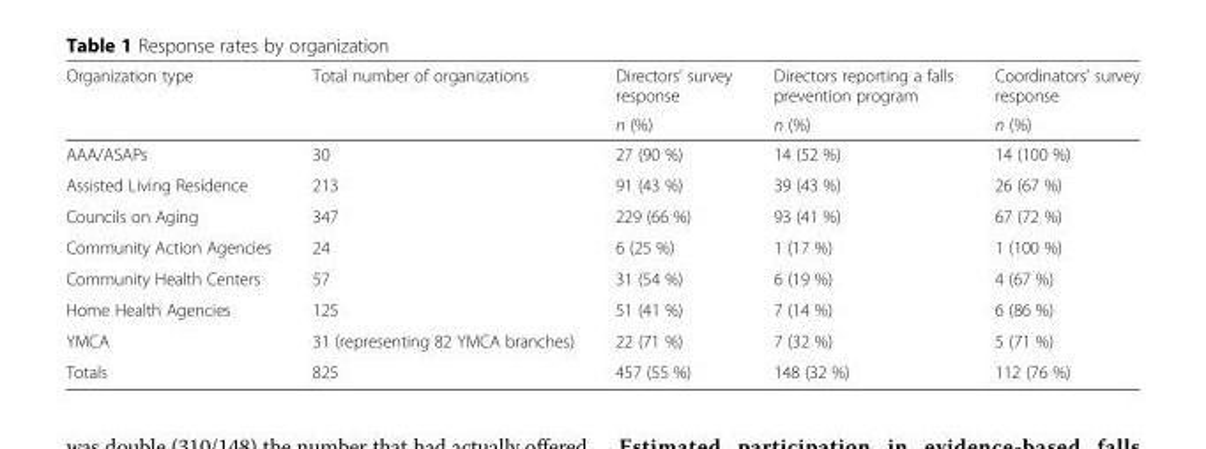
<table><thead><tr><td rowspan="2">Organization type</td><td rowspan="2">Total number of organizations</td><td rowspan="2">Directors’ survey response n (%)</td><td rowspan="2">Directors reporting a falls prevention program n (%)</td><td rowspan="2">Coordinators’ survey response n (%)</td></tr><tr></tr></thead><tbody><tr><td>AAA/ASAPs</td><td>30</td><td>27 (90 %)</td><td>14 (52 %)</td><td>14 (100 %)</td></tr><tr><td>Assisted Living Residence</td><td>213</td><td>91 (43 %)</td><td>39 (43 %)</td><td>26 (67 %)</td></tr><tr><td>Councils on Aging</td><td>347</td><td>229 (66 %)</td><td>93 (41 %)</td><td>67 (72 %)</td></tr><tr><td>Community Action Agencies</td><td>24</td><td>6 (25 %)</td><td>1 (17 %)</td><td>1 (100 %)</td></tr><tr><td>Community Health Centers</td><td>57</td><td>31 (54 %)</td><td>6 (19 %)</td><td>4 (67 %)</td></tr><tr><td>Home Health Agencies</td><td>125</td><td>51 (41 %)</td><td>7 (14 %)</td><td>6 (86 %)</td></tr><tr><td>YMCA</td><td>31 (representing 82 YMCA branches)</td><td>22 (71 %)</td><td>7 (32 %)</td><td>5 (71 %)</td></tr><tr><td>Totals</td><td>825</td><td>457 (55 %)</td><td>148 (32 %)</td><td>112 (76 %)</td></tr></tbody></table>